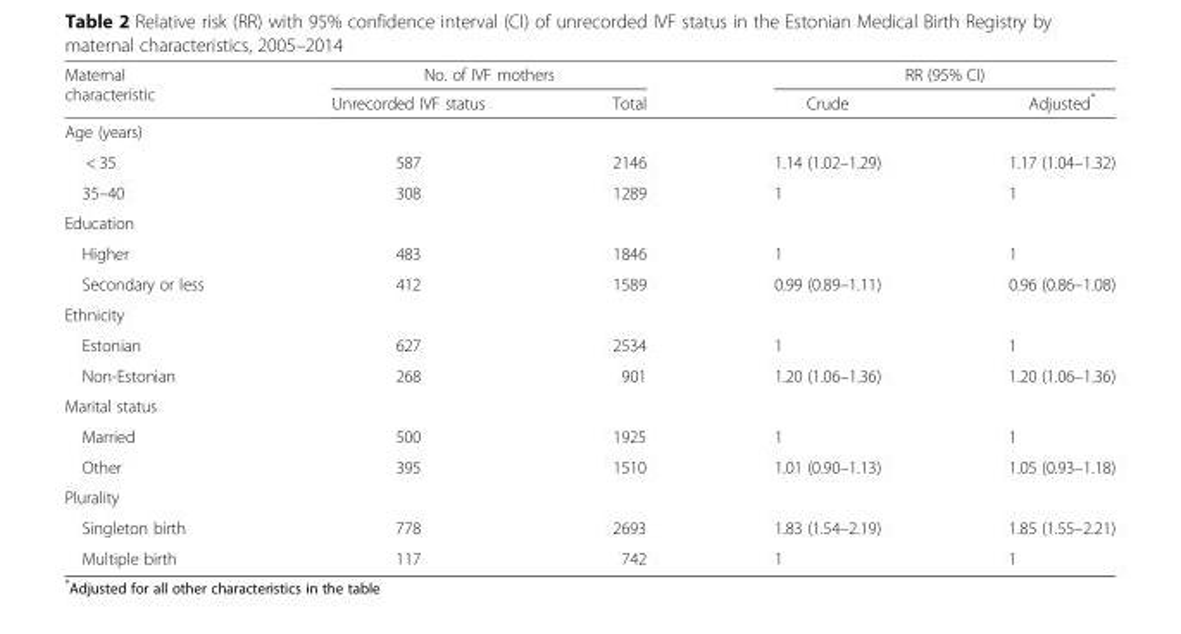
<table><thead><tr><td rowspan="2">Maternal characteristic</td><td colspan="2">No. of IVF mothers</td><td colspan="2">RR (95% CI)</td></tr><tr><td>Unrecorded IVF status</td><td>Total</td><td>Crude</td><td>Adjusted*</td></tr></thead><tbody><tr><td colspan="5">Age (years)</td></tr><tr><td>&lt; 35</td><td>587</td><td>2146</td><td>1.14 (1.02–1.29)</td><td>1.17 (1.04–1.32)</td></tr><tr><td>35–40</td><td>308</td><td>1289</td><td>1</td><td>1</td></tr><tr><td colspan="5">Education</td></tr><tr><td>Higher</td><td>483</td><td>1846</td><td>1</td><td>1</td></tr><tr><td>Secondary or less</td><td>412</td><td>1589</td><td>0.99 (0.89–1.11)</td><td>0.96 (0.86–1.08)</td></tr><tr><td colspan="5">Ethnicity</td></tr><tr><td>Estonian</td><td>627</td><td>2534</td><td>1</td><td>1</td></tr><tr><td>Non-Estonian</td><td>268</td><td>901</td><td>1.20 (1.06–1.36)</td><td>1.20 (1.06–1.36)</td></tr><tr><td colspan="5">Marital status</td></tr><tr><td>Married</td><td>500</td><td>1925</td><td>1</td><td>1</td></tr><tr><td>Other</td><td>395</td><td>1510</td><td>1.01 (0.90–1.13)</td><td>1.05 (0.93–1.18)</td></tr><tr><td colspan="5">Plurality</td></tr><tr><td>Singleton birth</td><td>778</td><td>2693</td><td>1.83 (1.54–2.19)</td><td>1.85 (1.55–2.21)</td></tr><tr><td>Multiple birth</td><td>117</td><td>742</td><td>1</td><td>1</td></tr></tbody></table>